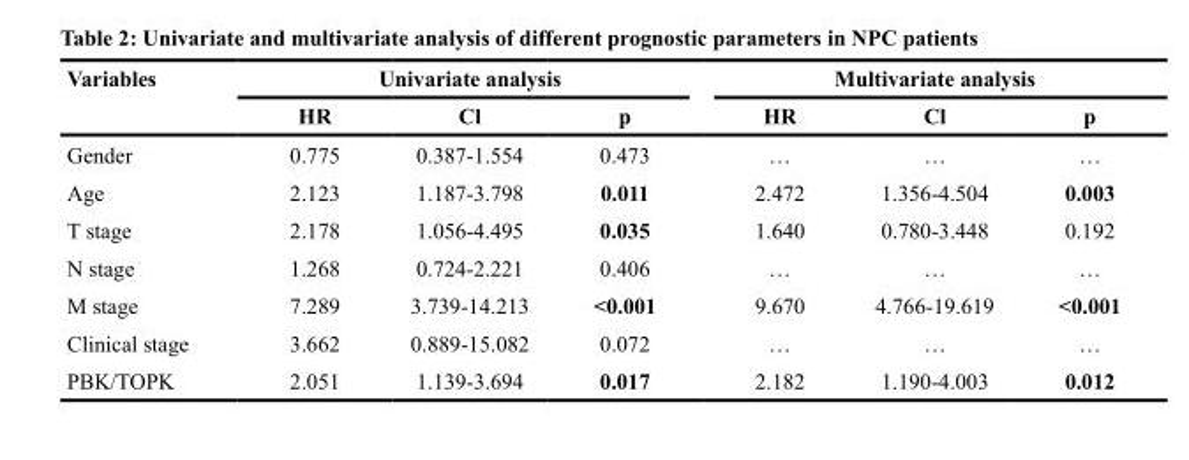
<table><thead><tr><td rowspan="2">Variables</td><td colspan="3">Univariate analysis</td><td colspan="3">Multivariate analysis</td></tr><tr><td>HR</td><td>Cl</td><td>p</td><td>HR</td><td>Cl</td><td>p</td></tr></thead><tbody><tr><td>Gender</td><td>0.775</td><td>0.387-1.554</td><td>0.473</td><td>…</td><td>…</td><td>…</td></tr><tr><td>Age</td><td>2.123</td><td>1.187-3.798</td><td>0.011</td><td>2.472</td><td>1.356-4.504</td><td>0.003</td></tr><tr><td>T stage</td><td>2.178</td><td>1.056-4.495</td><td>0.035</td><td>1.640</td><td>0.780-3.448</td><td>0.192</td></tr><tr><td>N stage</td><td>1.268</td><td>0.724-2.221</td><td>0.406</td><td>…</td><td>…</td><td>…</td></tr><tr><td>M stage</td><td>7.289</td><td>3.739-14.213</td><td>&lt;0.001</td><td>9.670</td><td>4.766-19.619</td><td>&lt;0.001</td></tr><tr><td>Clinical stage</td><td>3.662</td><td>0.889-15.082</td><td>0.072</td><td>…</td><td>…</td><td>…</td></tr><tr><td>PBK/TOPK</td><td>2.051</td><td>1.139-3.694</td><td>0.017</td><td>2.182</td><td>1.190-4.003</td><td>0.012</td></tr></tbody></table>